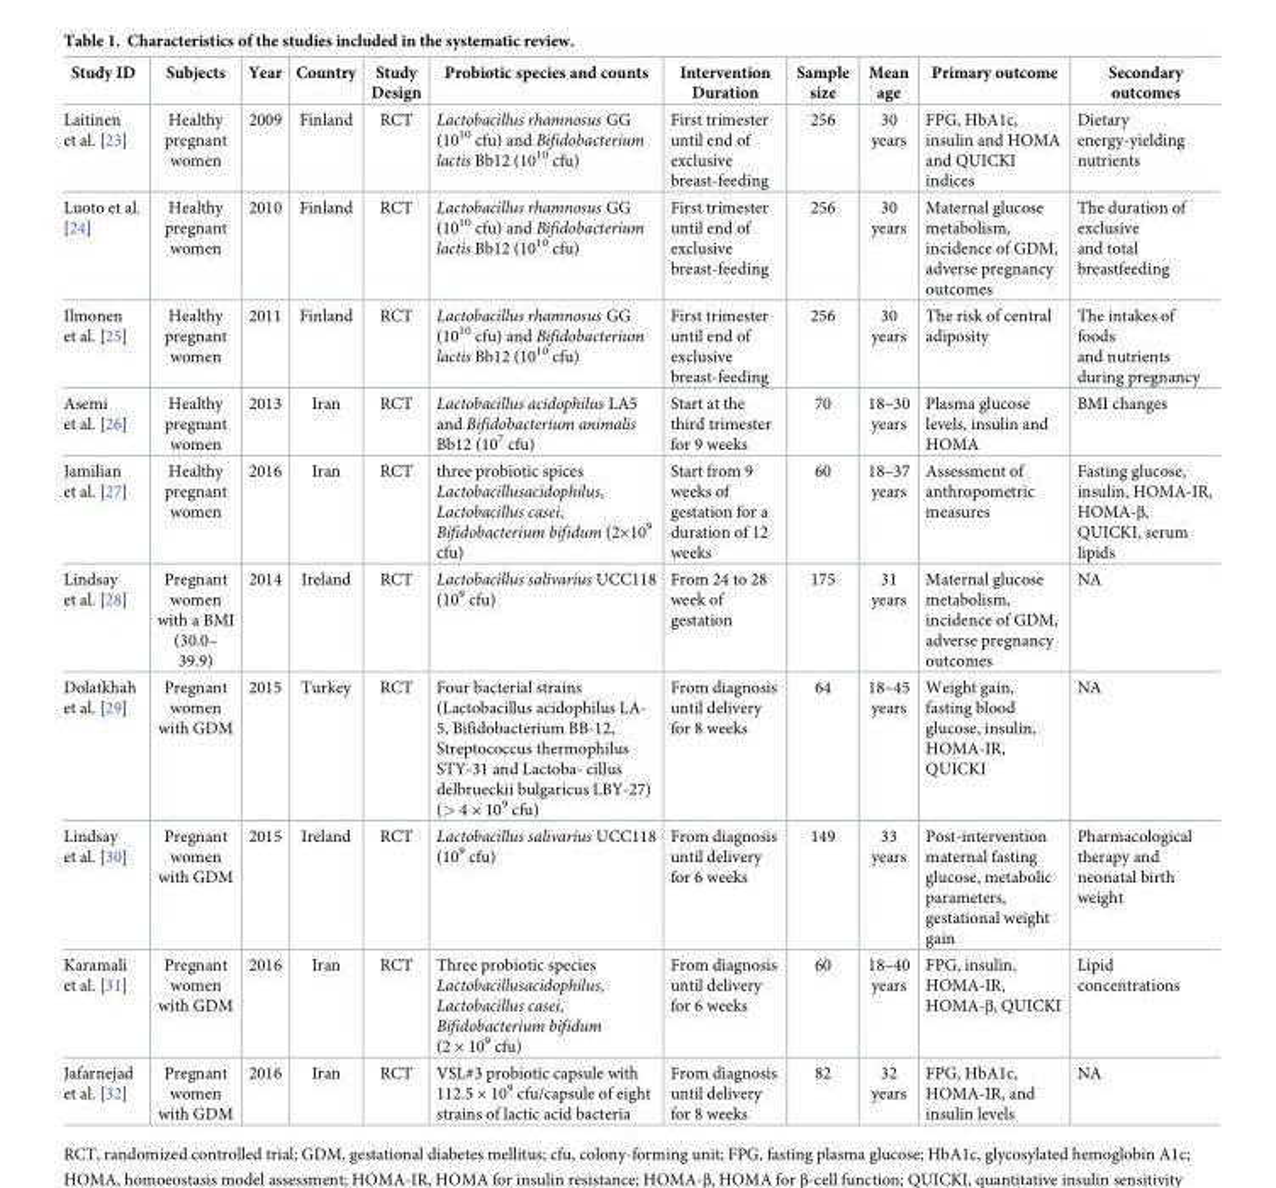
<table><thead><tr><td>Study ID</td><td>Subjects</td><td>Year</td><td>Country</td><td>Study Design</td><td>Probiotic species and counts</td><td>Intervention Duration</td><td>Sample size</td><td>Mean age</td><td>Primary outcome</td><td>Secondary outcomes</td></tr></thead><tbody><tr><td>Laitinen et al. [23]</td><td>Healthy pregnant women</td><td>2009</td><td>Finland</td><td>RCT</td><td>Lactobacillus rhamnosus GG (10<sup>10</sup> cfu) and Bifidobacterium lactis Bb12 (10<sup>10</sup> cfu)</td><td>First trimester until end of exclusive breast-feeding</td><td>256</td><td>30 years</td><td>FPG, HbA1c, insulin and HOMA and QUICKI indices</td><td>Dietary energy-yielding nutrients</td></tr><tr><td>Luoto et al. [24]</td><td>Healthy pregnant women</td><td>2010</td><td>Finland</td><td>RCT</td><td>Lactobacillus rhamnosus GG (10<sup>10</sup> cfu) and Bifidobacterium lactis Bb12 (10<sup>10</sup> cfu)</td><td>First trimester until end of exclusive breast-feeding</td><td>256</td><td>30 years</td><td>Maternal glucose metabolism, incidence of GDM, adverse pregnancy outcomes</td><td>The duration of exclusive and total breastfeeding</td></tr><tr><td>Ilmonen et al. [25]</td><td>Healthy pregnant women</td><td>2011</td><td>Finland</td><td>RCT</td><td>Lactobacillus rhamnosus GG (10<sup>10</sup> cfu) and Bifidobacterium lactis Bb12 (10<sup>10</sup> cfu)</td><td>First trimester until end of exclusive breast-feeding</td><td>256</td><td>30 years</td><td>The risk of central adiposity</td><td>The intakes of foods and nutrients during pregnancy</td></tr><tr><td>Asemi et al. [26]</td><td>Healthy pregnant women</td><td>2013</td><td>Iran</td><td>RCT</td><td>Lactobacillus acidophilus LA5 and Bifidobacterium animalis Bb12 (10<sup>7</sup> cfu)</td><td>Start at the third trimester for 9 weeks</td><td>70</td><td>18–30 years</td><td>Plasma glucose levels, insulin and HOMA</td><td>BMI changes</td></tr><tr><td>Jamilian et al. [27]</td><td>Healthy pregnant women</td><td>2016</td><td>Iran</td><td>RCT</td><td>three probiotic spices Lactobacillusacidophilus, Lactobacillus casei, Bifidobacterium bifidum (2×10<sup>9</sup> cfu)</td><td>Start from 9 weeks of gestation for a duration of 12 weeks</td><td>60</td><td>18–37 years</td><td>Assessment of anthropometric measures</td><td>Fasting glucose, insulin, HOMA-IR, HOMA-β, QUICKI, serum lipids</td></tr><tr><td>Lindsay et al. [28]</td><td>Pregnant women with a BMI (30.0– 39.9)</td><td>2014</td><td>Ireland</td><td>RCT</td><td>Lactobacillus salivarius UCC118 (10<sup>9</sup> cfu)</td><td>From 24 to 28 week of gestation</td><td>175</td><td>31 years</td><td>Maternal glucose metabolism, incidence of GDM, adverse pregnancy outcomes</td><td>NA</td></tr><tr><td>Dolatkhah et al. [29]</td><td>Pregnant women with GDM</td><td>2015</td><td>Turkey</td><td>RCT</td><td>Four bacterial strains (Lactobacillus acidophilus LA- 5, Bifidobacterium BB-12, Streptococcus thermophilus STY-31 and Lactoba- cillus delbrueckii bulgaricus LBY-27) (&gt; 4 × 10<sup>9</sup> cfu)</td><td>From diagnosis until delivery for 8 weeks</td><td>64</td><td>18–45 years</td><td>Weight gain, fasting blood glucose, insulin, HOMA-IR, QUICKI</td><td>NA</td></tr><tr><td>Lindsay et al. [30]</td><td>Pregnant women with GDM</td><td>2015</td><td>Ireland</td><td>RCT</td><td>Lactobacillus salivarius UCC118 (10<sup>9</sup> cfu)</td><td>From diagnosis until delivery for 6 weeks</td><td>149</td><td>33 years</td><td>Post-intervention maternal fasting glucose, metabolic parameters, gestational weight gain</td><td>Pharmacological therapy and neonatal birth weight</td></tr><tr><td>Karamali et al. [31]</td><td>Pregnant women with GDM</td><td>2016</td><td>Iran</td><td>RCT</td><td>Three probiotic species Lactobacillusacidophilus, Lactobacillus casei, Bifidobacterium bifidum (2 × 10<sup>9</sup> cfu)</td><td>From diagnosis until delivery for 6 weeks</td><td>60</td><td>18–40 years</td><td>FPG, insulin, HOMA-IR, HOMA-β, QUICKI</td><td>Lipid concentrations</td></tr><tr><td>Jafarnejad et al. [32]</td><td>Pregnant women with GDM</td><td>2016</td><td>Iran</td><td>RCT</td><td>VSL#3 probiotic capsule with 112.5 × 10<sup>9</sup> cfu/capsule of eight strains of lactic acid bacteria</td><td>From diagnosis until delivery for 8 weeks</td><td>82</td><td>32 years</td><td>FPG, HbA1c, HOMA-IR, and insulin levels</td><td>NA</td></tr></tbody></table>